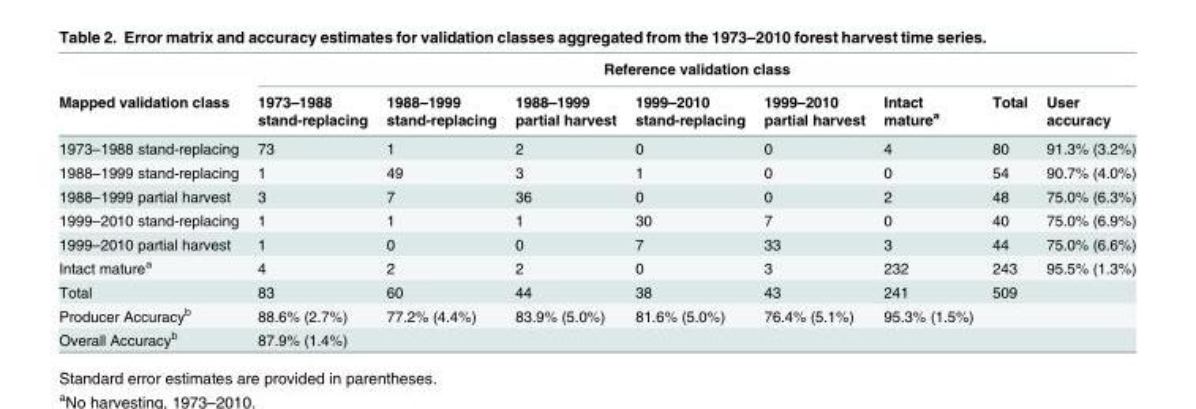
<table><thead><tr><td rowspan="2">Mapped validation class</td><td colspan="8">Reference validation class</td></tr><tr><td>1973–1988 stand-replacing</td><td>1988–1999 stand-replacing</td><td>1988–1999 partial harvest</td><td>1999–2010 stand-replacing</td><td>1999–2010 partial harvest</td><td>Intact mature<sup>a</sup></td><td>Total</td><td>User accuracy</td></tr></thead><tbody><tr><td>1973–1988 stand-replacing</td><td>73</td><td>1</td><td>2</td><td>0</td><td>0</td><td>4</td><td>80</td><td>91.3% (3.2%)</td></tr><tr><td>1988–1999 stand-replacing</td><td>1</td><td>49</td><td>3</td><td>1</td><td>0</td><td>0</td><td>54</td><td>90.7% (4.0%)</td></tr><tr><td>1988–1999 partial harvest</td><td>3</td><td>7</td><td>36</td><td>0</td><td>0</td><td>2</td><td>48</td><td>75.0% (6.3%)</td></tr><tr><td>1999–2010 stand-replacing</td><td>1</td><td>1</td><td>1</td><td>30</td><td>7</td><td>0</td><td>40</td><td>75.0% (6.9%)</td></tr><tr><td>1999–2010 partial harvest</td><td>1</td><td>0</td><td>0</td><td>7</td><td>33</td><td>3</td><td>44</td><td>75.0% (6.6%)</td></tr><tr><td>Intact mature<sup>a</sup></td><td>4</td><td>2</td><td>2</td><td>0</td><td>3</td><td>232</td><td>243</td><td>95.5% (1.3%)</td></tr><tr><td>Total</td><td>83</td><td>60</td><td>44</td><td>38</td><td>43</td><td>241</td><td>509</td><td></td></tr><tr><td>Producer Accuracy<sup>b</sup></td><td>88.6% (2.7%)</td><td>77.2% (4.4%)</td><td>83.9% (5.0%)</td><td>81.6% (5.0%)</td><td>76.4% (5.1%)</td><td>95.3% (1.5%)</td><td></td><td></td></tr><tr><td>Overall Accuracy<sup>b</sup></td><td>87.9% (1.4%)</td><td></td><td></td><td></td><td></td><td></td><td></td><td></td></tr></tbody></table>